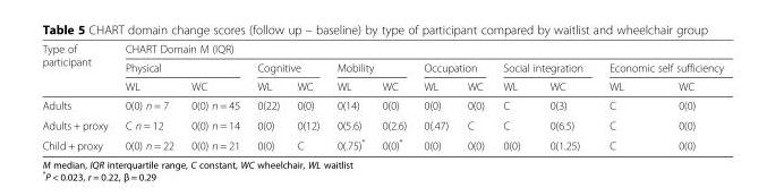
<table><thead><tr><td rowspan="3">Type of participant</td><td colspan="12">CHART Domain M (IQR)</td></tr><tr><td colspan="2">Physical</td><td colspan="2">Cognitive</td><td colspan="2">Mobility</td><td colspan="2">Occupation</td><td colspan="2">Social integration</td><td colspan="2">Economic self sufficiency</td></tr><tr><td>WL</td><td>WC</td><td>WL</td><td>WC</td><td>WL</td><td>WC</td><td>WL</td><td>WC</td><td>WL</td><td>WC</td><td>WL</td><td>WC</td></tr></thead><tbody><tr><td>Adults</td><td>0(0) n = 7</td><td>0(0) n = 45</td><td>0(22)</td><td>0(0)</td><td>0(14)</td><td>0(0)</td><td>0(0)</td><td>0(0)</td><td>C</td><td>0(3)</td><td>C</td><td>0(0)</td></tr><tr><td>Adults + proxy</td><td>C n = 12</td><td>0(0) n = 14</td><td>0(0)</td><td>0(12)</td><td>0(5.6)</td><td>0(2.6)</td><td>0(.47)</td><td>C</td><td>C</td><td>0(6.5)</td><td>C</td><td>0(0)</td></tr><tr><td>Child + proxy</td><td>0(0) n = 22</td><td>0(0) n = 21</td><td>0(0)</td><td>C</td><td>0(.75)*</td><td>0(0)*</td><td>0(0)</td><td>0(0)</td><td>0(0)</td><td>0(1.25)</td><td>C</td><td>0(0)</td></tr></tbody></table>